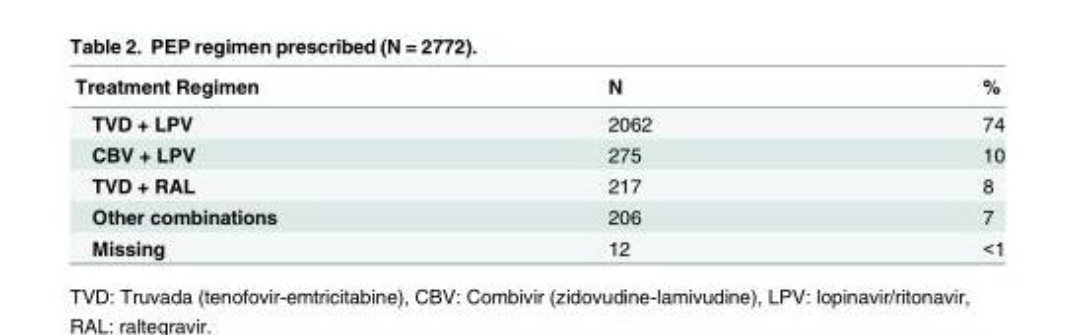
<table><thead><tr><td>Treatment Regimen</td><td>N</td><td>%</td></tr></thead><tbody><tr><td>TVD + LPV</td><td>2062</td><td>74</td></tr><tr><td>CBV + LPV</td><td>275</td><td>10</td></tr><tr><td>TVD + RAL</td><td>217</td><td>8</td></tr><tr><td>Other combinations</td><td>206</td><td>7</td></tr><tr><td>Missing</td><td>12</td><td>&lt;1</td></tr></tbody></table>